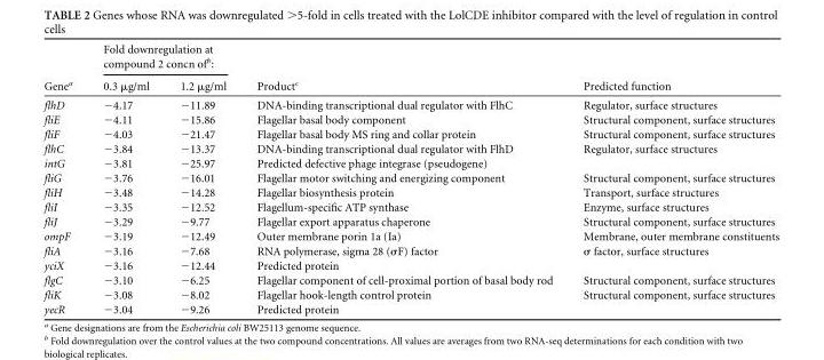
<table><thead><tr><td rowspan="2">Gene<sup>a</sup></td><td colspan="2">Fold downregulation at compound 2 concn of<sup>b</sup>:</td><td rowspan="2">Product<sup>c</sup></td><td rowspan="2">Predicted function</td></tr><tr><td>0.3 μg/ml</td><td>1.2 μg/ml</td></tr></thead><tbody><tr><td>flhD</td><td>−4.17</td><td>−11.89</td><td>DNA-binding transcriptional dual regulator with FlhC</td><td>Regulator, surface structures</td></tr><tr><td>fliE</td><td>−4.11</td><td>−15.86</td><td>Flagellar basal body component</td><td>Structural component, surface structures</td></tr><tr><td>fliF</td><td>−4.03</td><td>−21.47</td><td>Flagellar basal body MS ring and collar protein</td><td>Structural component, surface structures</td></tr><tr><td>flhC</td><td>−3.84</td><td>−13.37</td><td>DNA-binding transcriptional dual regulator with FlhD</td><td>Regulator, surface structures</td></tr><tr><td>intG</td><td>−3.81</td><td>−25.97</td><td>Predicted defective phage integrase (pseudogene)</td><td></td></tr><tr><td>fliG</td><td>−3.76</td><td>−16.01</td><td>Flagellar motor switching and energizing component</td><td>Structural component, surface structures</td></tr><tr><td>fliH</td><td>−3.48</td><td>−14.28</td><td>Flagellar biosynthesis protein</td><td>Transport, surface structures</td></tr><tr><td>fliI</td><td>−3.35</td><td>−12.52</td><td>Flagellum-specific ATP synthase</td><td>Enzyme, surface structures</td></tr><tr><td>fliJ</td><td>−3.29</td><td>−9.77</td><td>Flagellar export apparatus chaperone</td><td>Structural component, surface structures</td></tr><tr><td>ompF</td><td>−3.19</td><td>−12.49</td><td>Outer membrane porin 1a (Ia)</td><td>Membrane, outer membrane constituents</td></tr><tr><td>fliA</td><td>−3.16</td><td>−7.68</td><td>RNA polymerase, sigma 28 (σF) factor</td><td>σ factor, surface structures</td></tr><tr><td>yciX</td><td>−3.16</td><td>−12.44</td><td>Predicted protein</td><td></td></tr><tr><td>flgC</td><td>−3.10</td><td>−6.25</td><td>Flagellar component of cell-proximal portion of basal body rod</td><td>Structural component, surface structures</td></tr><tr><td>fliK</td><td>−3.08</td><td>−8.02</td><td>Flagellar hook-length control protein</td><td>Structural component, surface structures</td></tr><tr><td>yecR</td><td>−3.04</td><td>−9.26</td><td>Predicted protein</td><td></td></tr></tbody></table>